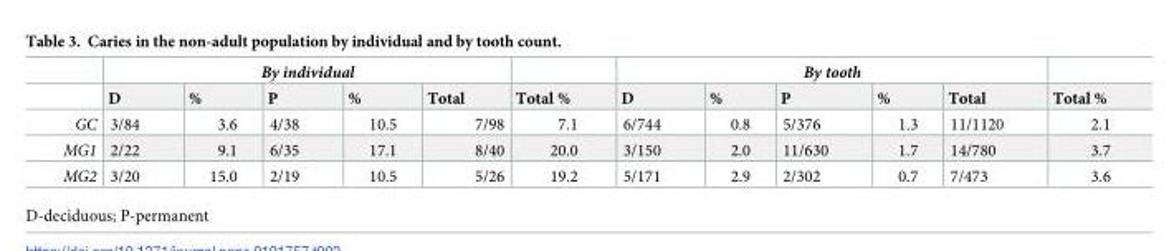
<table><thead><tr><td rowspan="2"></td><td colspan="5">By individual</td><td rowspan="2">Total %</td><td colspan="5">By tooth</td><td rowspan="2">Total %</td></tr><tr><td>D</td><td>%</td><td>P</td><td>%</td><td>Total</td><td>D</td><td>%</td><td>P</td><td>%</td><td>Total</td></tr></thead><tbody><tr><td>GC</td><td>3/84</td><td>3.6</td><td>4/38</td><td>10.5</td><td>7/98</td><td>7.1</td><td>6/744</td><td>0.8</td><td>5/376</td><td>1.3</td><td>11/1120</td><td>2.1</td></tr><tr><td>MG1</td><td>2/22</td><td>9.1</td><td>6/35</td><td>17.1</td><td>8/40</td><td>20.0</td><td>3/150</td><td>2.0</td><td>11/630</td><td>1.7</td><td>14/780</td><td>3.7</td></tr><tr><td>MG2</td><td>3/20</td><td>15.0</td><td>2/19</td><td>10.5</td><td>5/26</td><td>19.2</td><td>5/171</td><td>2.9</td><td>2/302</td><td>0.7</td><td>7/473</td><td>3.6</td></tr></tbody></table>